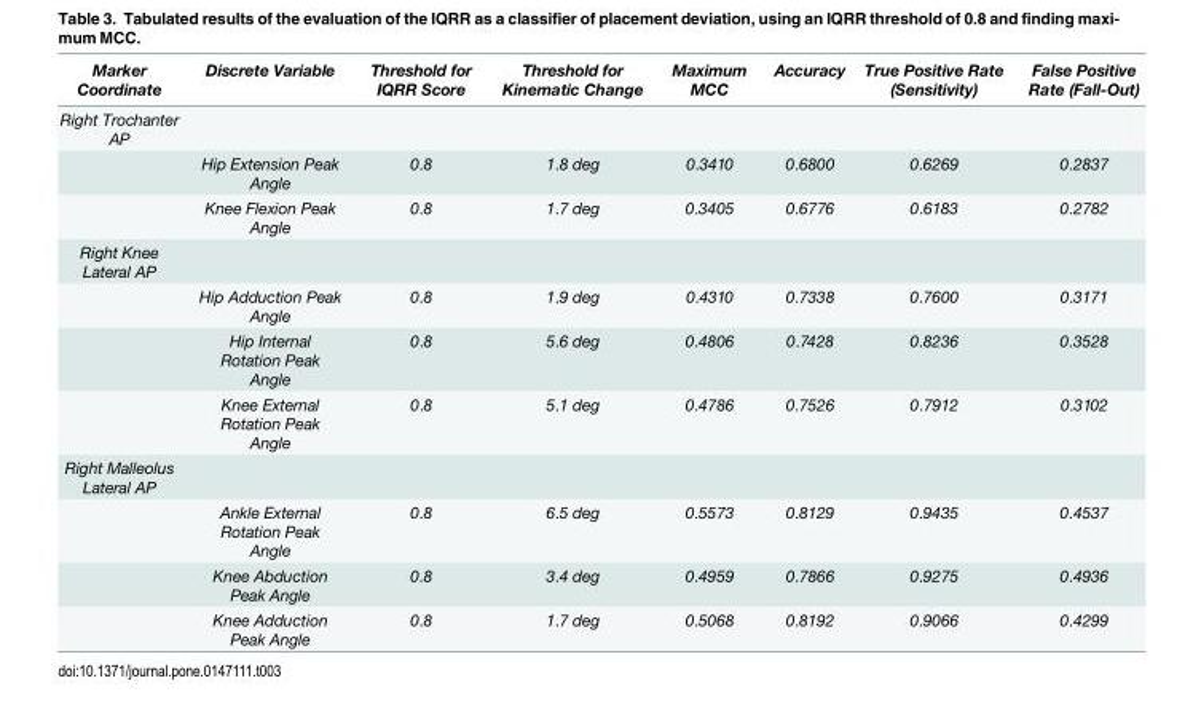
<table><thead><tr><td>Marker Coordinate</td><td>Discrete Variable</td><td>Threshold for IQRR Score</td><td>Threshold for Kinematic Change</td><td>Maximum MCC</td><td>Accuracy</td><td>True Positive Rate (Sensitivity)</td><td>False Positive Rate (Fall-Out)</td></tr></thead><tbody><tr><td colspan="8">Right Trochanter AP</td></tr><tr><td></td><td>Hip Extension Peak Angle</td><td>0.8</td><td>1.8 deg</td><td>0.3410</td><td>0.6800</td><td>0.6269</td><td>0.2837</td></tr><tr><td></td><td>Knee Flexion Peak Angle</td><td>0.8</td><td>1.7 deg</td><td>0.3405</td><td>0.6776</td><td>0.6183</td><td>0.2782</td></tr><tr><td colspan="8">Right Knee Lateral AP</td></tr><tr><td></td><td>Hip Adduction Peak Angle</td><td>0.8</td><td>1.9 deg</td><td>0.4310</td><td>0.7338</td><td>0.7600</td><td>0.3171</td></tr><tr><td></td><td>Hip Internal Rotation Peak Angle</td><td>0.8</td><td>5.6 deg</td><td>0.4806</td><td>0.7428</td><td>0.8236</td><td>0.3528</td></tr><tr><td></td><td>Knee External Rotation Peak Angle</td><td>0.8</td><td>5.1 deg</td><td>0.4786</td><td>0.7526</td><td>0.7912</td><td>0.3102</td></tr><tr><td colspan="8">Right Malleolus Lateral AP</td></tr><tr><td></td><td>Ankle External Rotation Peak Angle</td><td>0.8</td><td>6.5 deg</td><td>0.5573</td><td>0.8129</td><td>0.9435</td><td>0.4537</td></tr><tr><td></td><td>Knee Abduction Peak Angle</td><td>0.8</td><td>3.4 deg</td><td>0.4959</td><td>0.7866</td><td>0.9275</td><td>0.4936</td></tr><tr><td></td><td>Knee Adduction Peak Angle</td><td>0.8</td><td>1.7 deg</td><td>0.5068</td><td>0.8192</td><td>0.9066</td><td>0.4299</td></tr></tbody></table>